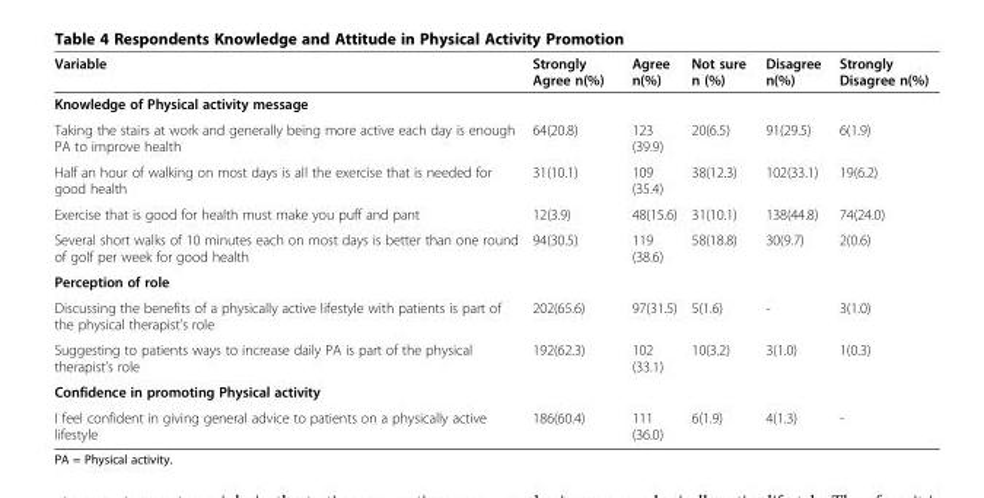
<table><thead><tr><td>Variable</td><td>Strongly Agree n(%)</td><td>Agree n(%)</td><td>Not sure n (%)</td><td>Disagree n(%)</td><td>Strongly Disagree n(%)</td></tr></thead><tbody><tr><td colspan="6">Knowledge of Physical activity message</td></tr><tr><td>Taking the stairs at work and generally being more active each day is enough PA to improve health</td><td>64(20.8)</td><td>123 (39.9)</td><td>20(6.5)</td><td>91(29.5)</td><td>6(1.9)</td></tr><tr><td>Half an hour of walking on most days is all the exercise that is needed for good health</td><td>31(10.1)</td><td>109 (35.4)</td><td>38(12.3)</td><td>102(33.1)</td><td>19(6.2)</td></tr><tr><td>Exercise that is good for health must make you puff and pant</td><td>12(3.9)</td><td>48(15.6)</td><td>31(10.1)</td><td>138(44.8)</td><td>74(24.0)</td></tr><tr><td>Several short walks of 10 minutes each on most days is better than one round of golf per week for good health</td><td>94(30.5)</td><td>119 (38.6)</td><td>58(18.8)</td><td>30(9.7)</td><td>2(0.6)</td></tr><tr><td colspan="6">Perception of role</td></tr><tr><td>Discussing the benefits of a physically active lifestyle with patients is part of the physical therapist’s role</td><td>202(65.6)</td><td>97(31.5)</td><td>5(1.6)</td><td>-</td><td>3(1.0)</td></tr><tr><td>Suggesting to patients ways to increase daily PA is part of the physical therapist’s role</td><td>192(62.3)</td><td>102 (33.1)</td><td>10(3.2)</td><td>3(1.0)</td><td>1(0.3)</td></tr><tr><td colspan="6">Confidence in promoting Physical activity</td></tr><tr><td>I feel confident in giving general advice to patients on a physically active lifestyle</td><td>186(60.4)</td><td>111 (36.0)</td><td>6(1.9)</td><td>4(1.3)</td><td>-</td></tr></tbody></table>